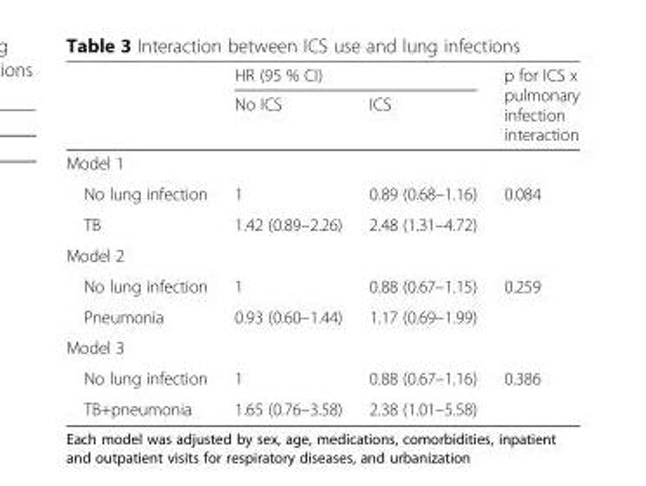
<table><thead><tr><td rowspan="2"></td><td colspan="2">HR (95 % CI)</td><td rowspan="2">p for ICS x pulmonary infection interaction</td></tr><tr><td>No ICS</td><td>ICS</td></tr></thead><tbody><tr><td colspan="4">Model 1</td></tr><tr><td>No lung infection</td><td>1</td><td>0.89 (0.68–1.16)</td><td rowspan="2">0.084</td></tr><tr><td>TB</td><td>1.42 (0.89–2.26)</td><td>2.48 (1.31–4.72)</td></tr><tr><td colspan="4">Model 2</td></tr><tr><td>No lung infection</td><td>1</td><td>0.88 (0.67–1.15)</td><td rowspan="2">0.259</td></tr><tr><td>Pneumonia</td><td>0.93 (0.60–1.44)</td><td>1.17 (0.69–1.99)</td></tr><tr><td colspan="4">Model 3</td></tr><tr><td>No lung infection</td><td>1</td><td>0.88 (0.67–1.16)</td><td rowspan="2">0.386</td></tr><tr><td>TB+pneumonia</td><td>1.65 (0.76–3.58)</td><td>2.38 (1.01–5.58)</td></tr></tbody></table>